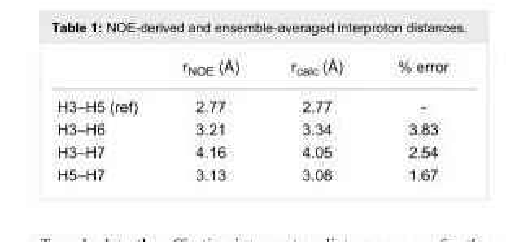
<table><thead><tr><td></td><td>r<sub>NOE</sub> (Å)</td><td>r<sub>calc</sub> (Å)</td><td>% error</td></tr></thead><tbody><tr><td>H3–H5 (ref)</td><td>2.77</td><td>2.77</td><td>-</td></tr><tr><td>H3–H6</td><td>3.21</td><td>3.34</td><td>3.83</td></tr><tr><td>H3–H7</td><td>4.16</td><td>4.05</td><td>2.54</td></tr><tr><td>H5–H7</td><td>3.13</td><td>3.08</td><td>1.67</td></tr></tbody></table>